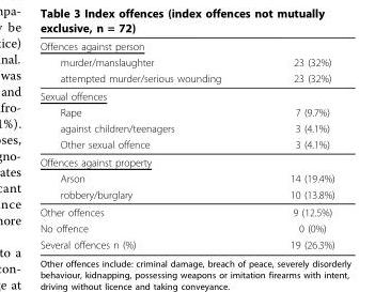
<table><thead><tr><td rowspan="3">Offences against person murder/manslaughter attempted murder/serious wounding</td><td rowspan="3">23 (32%) 23 (32%)</td></tr><tr></tr><tr></tr></thead><tbody><tr><td colspan="2">Sexual offences</td></tr><tr><td>Rape</td><td>7 (9.7%)</td></tr><tr><td>against children/teenagers</td><td>3 (4.1%)</td></tr><tr><td>Other sexual offence</td><td>3 (4.1%)</td></tr><tr><td colspan="2">Offences against property</td></tr><tr><td>Arson</td><td>14 (19.4%)</td></tr><tr><td>robbery/burglary</td><td>10 (13.8%)</td></tr><tr><td>Other offences</td><td>9 (12.5%)</td></tr><tr><td>No offence</td><td>0 (0%)</td></tr><tr><td>Several offences n (%)</td><td>19 (26.3%)</td></tr></tbody></table>